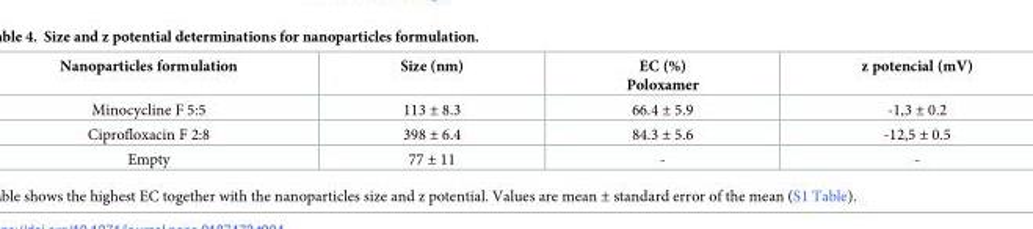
<table><thead><tr><td>Nanoparticles formulation</td><td>Size (nm)</td><td>EC (%) Poloxamer</td><td>z potencial (mV)</td></tr></thead><tbody><tr><td>Minocycline F 5:5</td><td>113 ± 8.3</td><td>66.4 ± 5.9</td><td>-1,3 ± 0.2</td></tr><tr><td>Ciprofloxacin F 2:8</td><td>398 ± 6.4</td><td>84.3 ± 5.6</td><td>-12,5 ± 0.5</td></tr><tr><td>Empty</td><td>77 ± 11</td><td>-</td><td>-</td></tr></tbody></table>